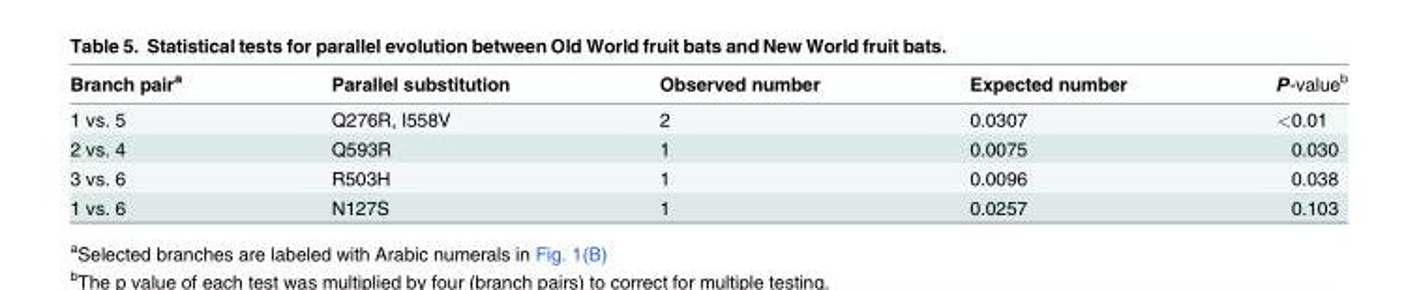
<table><thead><tr><td>Branch pair<sup>a</sup></td><td>Parallel substitution</td><td>Observed number</td><td>Expected number</td><td>P-value<sup>b</sup></td></tr></thead><tbody><tr><td>1 vs. 5</td><td>Q276R, I558V</td><td>2</td><td>0.0307</td><td>&lt;0.01</td></tr><tr><td>2 vs. 4</td><td>Q593R</td><td>1</td><td>0.0075</td><td>0.030</td></tr><tr><td>3 vs. 6</td><td>R503H</td><td>1</td><td>0.0096</td><td>0.038</td></tr><tr><td>1 vs. 6</td><td>N127S</td><td>1</td><td>0.0257</td><td>0.103</td></tr></tbody></table>